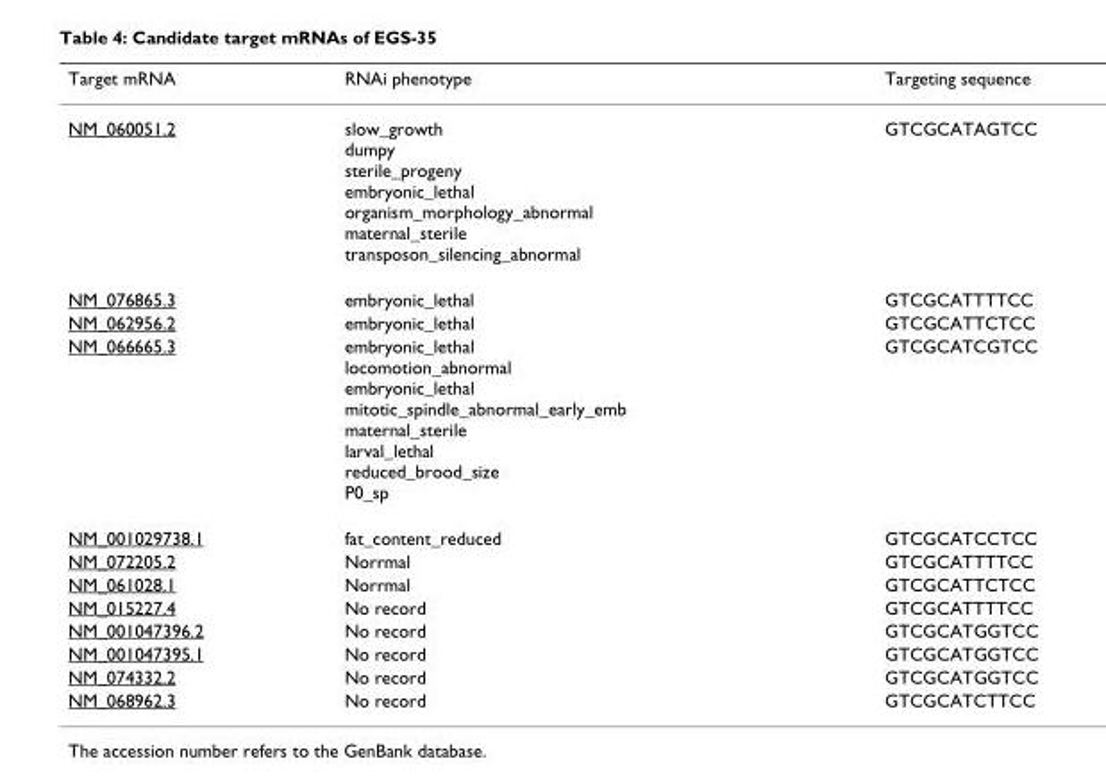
<table><thead><tr><td>Target mRNA</td><td>RNAi phenotype</td><td>Targeting sequence</td></tr></thead><tbody><tr><td>NM_060051.2</td><td>slow_growth dumpy sterile_progeny embryonic_lethal organism_morphology_abnormal maternal_sterile transposon_silencing_abnormal</td><td>GTCGCATAGTCC</td></tr><tr><td>NM_076865.3</td><td>embryonic_lethal</td><td>GTCGCATTTTCC</td></tr><tr><td>NM_062956.2</td><td>embryonic_lethal</td><td>GTCGCATTCTCC</td></tr><tr><td>NM_066665.3</td><td>embryonic_lethal locomotion_abnormal embryonic_lethal mitotic_spindle_abnormal_early_emb maternal_sterile larval_lethal reduced_brood_size P0_sp</td><td>GTCGCATCGTCC</td></tr><tr><td>NM_001029738.1</td><td>fat_content_reduced</td><td>GTCGCATCCTCC</td></tr><tr><td>NM_072205.2</td><td>Norrmal</td><td>GTCGCATTTTCC</td></tr><tr><td>NM_061028.1</td><td>Norrmal</td><td>GTCGCATTCTCC</td></tr><tr><td>NM_015227.4</td><td>No record</td><td>GTCGCATTTTCC</td></tr><tr><td>NM_001047396.2</td><td>No record</td><td>GTCGCATGGTCC</td></tr><tr><td>NM_001047395.1</td><td>No record</td><td>GTCGCATGGTCC</td></tr><tr><td>NM_074332.2</td><td>No record</td><td>GTCGCATGGTCC</td></tr><tr><td>NM_068962.3</td><td>No record</td><td>GTCGCATCTTCC</td></tr></tbody></table>